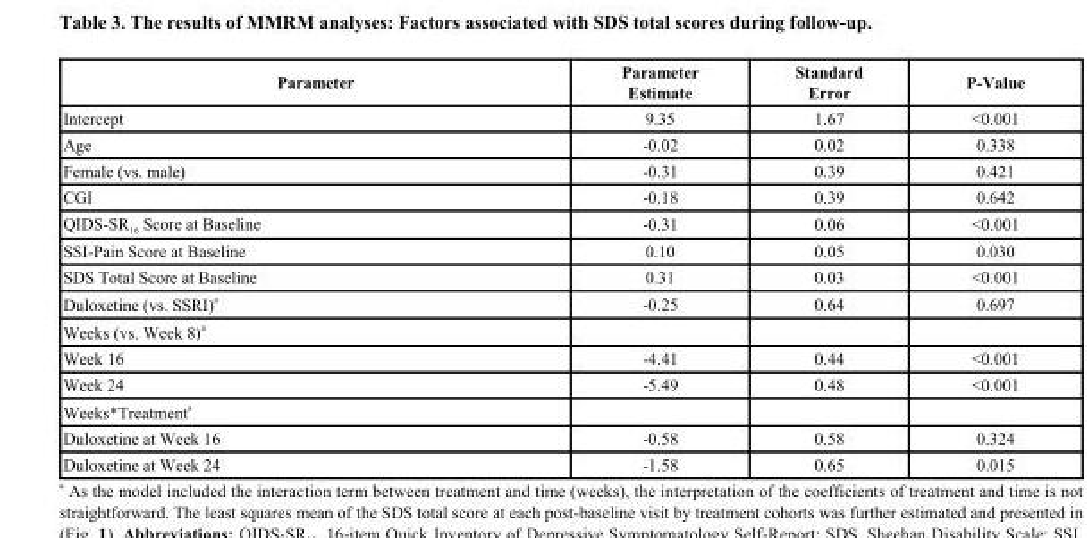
<table><thead><tr><td>Parameter</td><td>Parameter Estimate</td><td>Standard Error</td><td>P-Value</td></tr></thead><tbody><tr><td>Intercept</td><td>9.35</td><td>1.67</td><td>&lt;0.001</td></tr><tr><td>Age</td><td>-0.02</td><td>0.02</td><td>0.338</td></tr><tr><td>Female (vs. male)</td><td>-0.31</td><td>0.39</td><td>0.421</td></tr><tr><td>CGI</td><td>-0.18</td><td>0.39</td><td>0.642</td></tr><tr><td>QIDS-SR<sub>16</sub> Score at Baseline</td><td>-0.31</td><td>0.06</td><td>&lt;0.001</td></tr><tr><td>SSI-Pain Score at Baseline</td><td>0.10</td><td>0.05</td><td>0.030</td></tr><tr><td>SDS Total Score at Baseline</td><td>0.31</td><td>0.03</td><td>&lt;0.001</td></tr><tr><td>Duloxetine (vs. SSRI) <sup>a</sup></td><td>-0.25</td><td>0.64</td><td>0.697</td></tr><tr><td colspan="4">Weeks (vs. Week 8) <sup>a</sup></td></tr><tr><td>Week 16</td><td>-4.41</td><td>0.44</td><td>&lt;0.001</td></tr><tr><td>Week 24</td><td>-5.49</td><td>0.48</td><td>&lt;0.001</td></tr><tr><td colspan="4">Weeks*Treatment <sup>a</sup></td></tr><tr><td>Duloxetine at Week 16</td><td>-0.58</td><td>0.58</td><td>0.324</td></tr><tr><td>Duloxetine at Week 24</td><td>-1.58</td><td>0.65</td><td>0.015</td></tr></tbody></table>